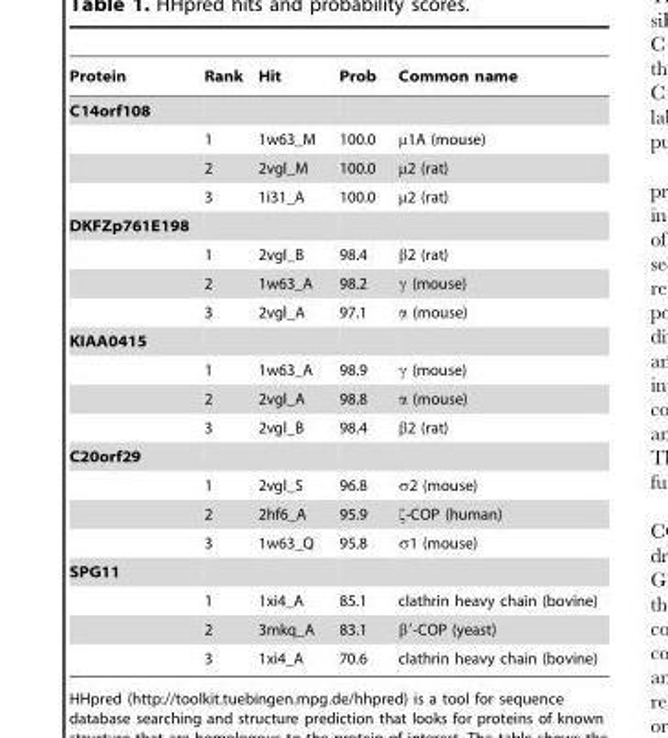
<table><thead><tr><td>Protein</td><td>Rank</td><td>Hit</td><td>Prob</td><td>Common name</td></tr></thead><tbody><tr><td colspan="5">C14orf108</td></tr><tr><td></td><td>1</td><td>1w63_M</td><td>100.0</td><td>μ1A (mouse)</td></tr><tr><td></td><td>2</td><td>2vgl_M</td><td>100.0</td><td>μ2 (rat)</td></tr><tr><td></td><td>3</td><td>1i31_A</td><td>100.0</td><td>μ2 (rat)</td></tr><tr><td colspan="5">DKFZp761E198</td></tr><tr><td></td><td>1</td><td>2vgl_B</td><td>98.4</td><td>β2 (rat)</td></tr><tr><td></td><td>2</td><td>1w63_A</td><td>98.2</td><td>γ (mouse)</td></tr><tr><td></td><td>3</td><td>2vgl_A</td><td>97.1</td><td>α (mouse)</td></tr><tr><td colspan="5">KIAA0415</td></tr><tr><td></td><td>1</td><td>1w63_A</td><td>98.9</td><td>γ (mouse)</td></tr><tr><td></td><td>2</td><td>2vgl_A</td><td>98.8</td><td>α (mouse)</td></tr><tr><td></td><td>3</td><td>2vgl_B</td><td>98.4</td><td>β2 (rat)</td></tr><tr><td colspan="5">C20orf29</td></tr><tr><td></td><td>1</td><td>2vgl_S</td><td>96.8</td><td>σ2 (mouse)</td></tr><tr><td></td><td>2</td><td>2hf6_A</td><td>95.9</td><td>ζ-COP (human)</td></tr><tr><td></td><td>3</td><td>1w63_Q</td><td>95.8</td><td>σ1 (mouse)</td></tr><tr><td colspan="5">SPG11</td></tr><tr><td></td><td>1</td><td>1xi4_A</td><td>85.1</td><td>clathrin heavy chain (bovine)</td></tr><tr><td></td><td>2</td><td>3mkq_A</td><td>83.1</td><td>β′-COP (yeast)</td></tr><tr><td></td><td>3</td><td>1xi4_A</td><td>70.6</td><td>clathrin heavy chain (bovine)</td></tr></tbody></table>